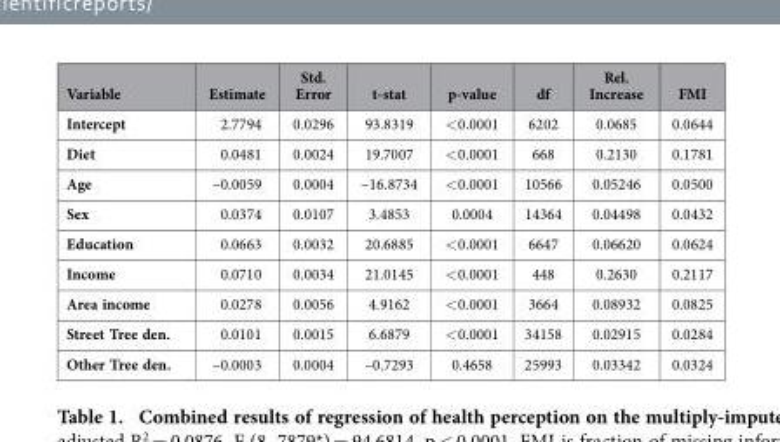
<table><thead><tr><td>Variable</td><td>Estimate</td><td>Std. Error</td><td>t-stat</td><td>p-value</td><td>df</td><td>Rel. Increase</td><td>FMI</td></tr></thead><tbody><tr><td>Intercept</td><td>2.7794</td><td>0.0296</td><td>93.8319</td><td>&lt; 0.0001</td><td>6202</td><td>0.0685</td><td>0.0644</td></tr><tr><td>Diet</td><td>0.0481</td><td>0.0024</td><td>19.7007</td><td>&lt; 0.0001</td><td>668</td><td>0.2130</td><td>0.1781</td></tr><tr><td>Age</td><td>–0.0059</td><td>0.0004</td><td>–16.8734</td><td>&lt; 0.0001</td><td>10566</td><td>0.05246</td><td>0.0500</td></tr><tr><td>Sex</td><td>0.0374</td><td>0.0107</td><td>3.4853</td><td>0.0004</td><td>14364</td><td>0.04498</td><td>0.0432</td></tr><tr><td>Education</td><td>0.0663</td><td>0.0032</td><td>20.6885</td><td>&lt; 0.0001</td><td>6647</td><td>0.06620</td><td>0.0624</td></tr><tr><td>Income</td><td>0.0710</td><td>0.0034</td><td>21.0145</td><td>&lt; 0.0001</td><td>448</td><td>0.2630</td><td>0.2117</td></tr><tr><td>Area income</td><td>0.0278</td><td>0.0056</td><td>4.9162</td><td>&lt; 0.0001</td><td>3664</td><td>0.08932</td><td>0.0825</td></tr><tr><td>Street Tree den.</td><td>0.0101</td><td>0.0015</td><td>6.6879</td><td>&lt; 0.0001</td><td>34158</td><td>0.02915</td><td>0.0284</td></tr><tr><td>Other Tree den.</td><td>–0.0003</td><td>0.0004</td><td>–0.7293</td><td>0.4658</td><td>25993</td><td>0.03342</td><td>0.0324</td></tr></tbody></table>